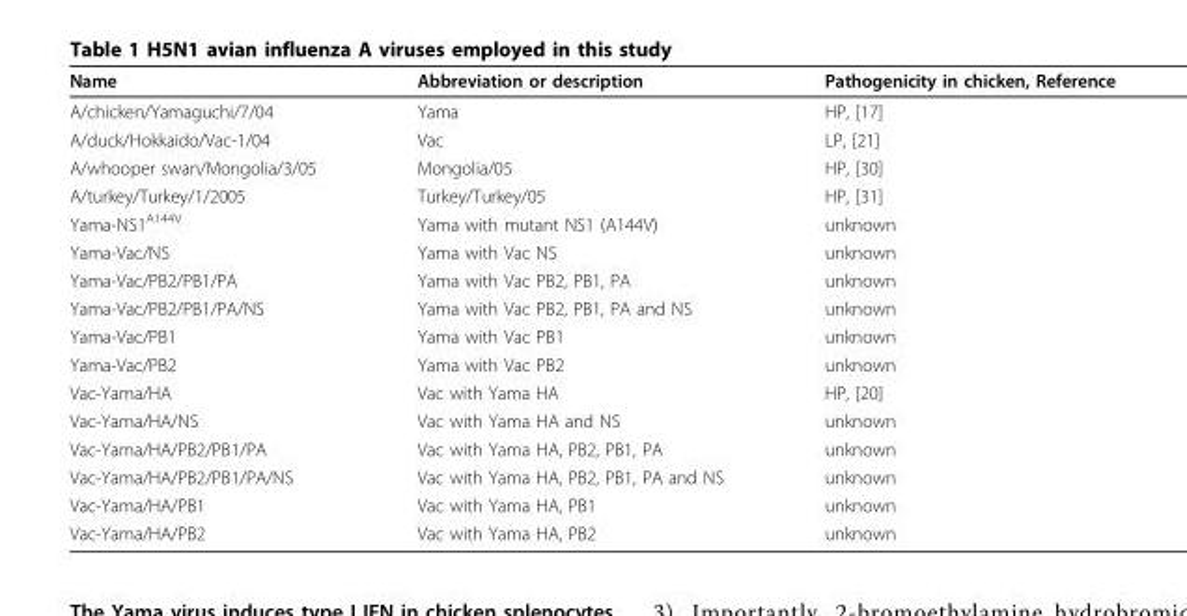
<table><thead><tr><td>Name</td><td>Abbreviation or description</td><td>Pathogenicity in chicken, Reference</td></tr></thead><tbody><tr><td>A/chicken/Yamaguchi/7/04</td><td>Yama</td><td>HP, [17]</td></tr><tr><td>A/duck/Hokkaido/Vac-1/04</td><td>Vac</td><td>LP, [21]</td></tr><tr><td>A/whooper swan/Mongolia/3/05</td><td>Mongolia/05</td><td>HP, [30]</td></tr><tr><td>A/turkey/Turkey/1/2005</td><td>Turkey/Turkey/05</td><td>HP, [31]</td></tr><tr><td>Yama-NS1<sup>A144V</sup></td><td>Yama with mutant NS1 (A144V)</td><td>unknown</td></tr><tr><td>Yama-Vac/NS</td><td>Yama with Vac NS</td><td>unknown</td></tr><tr><td>Yama-Vac/PB2/PB1/PA</td><td>Yama with Vac PB2, PB1, PA</td><td>unknown</td></tr><tr><td>Yama-Vac/PB2/PB1/PA/NS</td><td>Yama with Vac PB2, PB1, PA and NS</td><td>unknown</td></tr><tr><td>Yama-Vac/PB1</td><td>Yama with Vac PB1</td><td>unknown</td></tr><tr><td>Yama-Vac/PB2</td><td>Yama with Vac PB2</td><td>unknown</td></tr><tr><td>Vac-Yama/HA</td><td>Vac with Yama HA</td><td>HP, [20]</td></tr><tr><td>Vac-Yama/HA/NS</td><td>Vac with Yama HA and NS</td><td>unknown</td></tr><tr><td>Vac-Yama/HA/PB2/PB1/PA</td><td>Vac with Yama HA, PB2, PB1, PA</td><td>unknown</td></tr><tr><td>Vac-Yama/HA/PB2/PB1/PA/NS</td><td>Vac with Yama HA, PB2, PB1, PA and NS</td><td>unknown</td></tr><tr><td>Vac-Yama/HA/PB1</td><td>Vac with Yama HA, PB1</td><td>unknown</td></tr><tr><td>Vac-Yama/HA/PB2</td><td>Vac with Yama HA, PB2</td><td>unknown</td></tr></tbody></table>